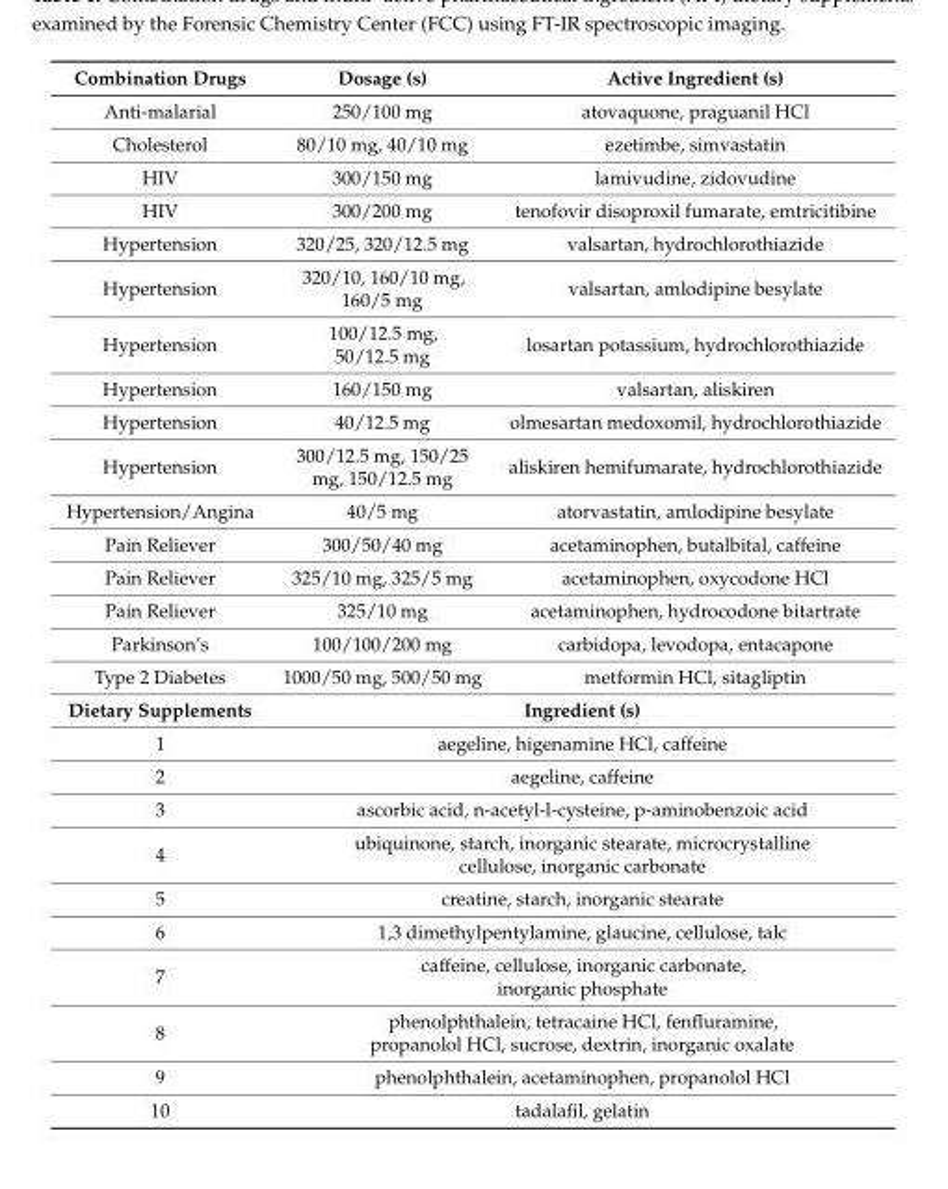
<table><thead><tr><td>Combination Drugs</td><td>Dosage (s)</td><td>Active Ingredient (s)</td></tr></thead><tbody><tr><td>Anti-malarial</td><td>250/100 mg</td><td>atovaquone, praguanil HCl</td></tr><tr><td>Cholesterol</td><td>80/10 mg, 40/10 mg</td><td>ezetimbe, simvastatin</td></tr><tr><td>HIV</td><td>300/150 mg</td><td>lamivudine, zidovudine</td></tr><tr><td>HIV</td><td>300/200 mg</td><td>tenofovir disoproxil fumarate, emtricitibine</td></tr><tr><td>Hypertension</td><td>320/25, 320/12.5 mg</td><td>valsartan, hydrochlorothiazide</td></tr><tr><td>Hypertension</td><td>320/10, 160/10 mg, 160/5 mg</td><td>valsartan, amlodipine besylate</td></tr><tr><td>Hypertension</td><td>100/12.5 mg, 50/12.5 mg</td><td>losartan potassium, hydrochlorothiazide</td></tr><tr><td>Hypertension</td><td>160/150 mg</td><td>valsartan, aliskiren</td></tr><tr><td>Hypertension</td><td>40/12.5 mg</td><td>olmesartan medoxomil, hydrochlorothiazide</td></tr><tr><td>Hypertension</td><td>300/12.5 mg, 150/25 mg, 150/12.5 mg</td><td>aliskiren hemifumarate, hydrochlorothiazide</td></tr><tr><td>Hypertension/Angina</td><td>40/5 mg</td><td>atorvastatin, amlodipine besylate</td></tr><tr><td>Pain Reliever</td><td>300/50/40 mg</td><td>acetaminophen, butalbital, caffeine</td></tr><tr><td>Pain Reliever</td><td>325/10 mg, 325/5 mg</td><td>acetaminophen, oxycodone HCl</td></tr><tr><td>Pain Reliever</td><td>325/10 mg</td><td>acetaminophen, hydrocodone bitartrate</td></tr><tr><td>Parkinson’s</td><td>100/100/200 mg</td><td>carbidopa, levodopa, entacapone</td></tr><tr><td>Type 2 Diabetes</td><td>1000/50 mg, 500/50 mg</td><td>metformin HCl, sitagliptin</td></tr><tr><td>Dietary Supplements</td><td colspan="2">Ingredient (s)</td></tr><tr><td>1</td><td colspan="2">aegeline, higenamine HCl, caffeine</td></tr><tr><td>2</td><td colspan="2">aegeline, caffeine</td></tr><tr><td>3</td><td colspan="2">ascorbic acid, n-acetyl-l-cysteine, p-aminobenzoic acid</td></tr><tr><td>4</td><td colspan="2">ubiquinone, starch, inorganic stearate, microcrystalline cellulose, inorganic carbonate</td></tr><tr><td>5</td><td colspan="2">creatine, starch, inorganic stearate</td></tr><tr><td>6</td><td colspan="2">1,3 dimethylpentylamine, glaucine, cellulose, talc</td></tr><tr><td>7</td><td colspan="2">caffeine, cellulose, inorganic carbonate, inorganic phosphate</td></tr><tr><td>8</td><td colspan="2">phenolphthalein, tetracaine HCl, fenfluramine, propanolol HCl, sucrose, dextrin, inorganic oxalate</td></tr><tr><td>9</td><td colspan="2">phenolphthalein, acetaminophen, propanolol HCl</td></tr><tr><td>10</td><td colspan="2">tadalafil, gelatin</td></tr></tbody></table>